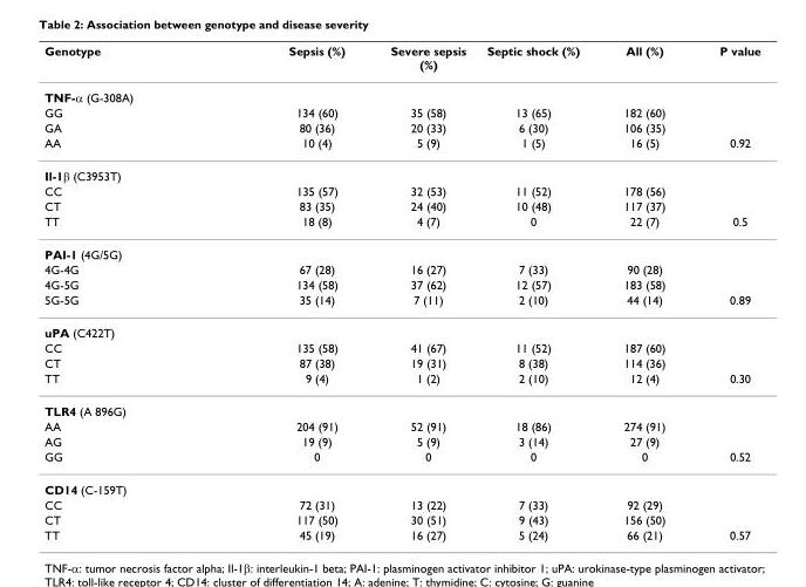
<table><thead><tr><td>Genotype</td><td>Sepsis (%)</td><td>Severe sepsis (%)</td><td>Septic shock (%)</td><td>All (%)</td><td>P value</td></tr></thead><tbody><tr><td colspan="6">TNF-α (G-308A)</td></tr><tr><td>GG</td><td>134 (60)</td><td>35 (58)</td><td>13 (65)</td><td>182 (60)</td><td></td></tr><tr><td>GA</td><td>80 (36)</td><td>20 (33)</td><td>6 (30)</td><td>106 (35)</td><td></td></tr><tr><td>AA</td><td>10 (4)</td><td>5 (9)</td><td>1 (5)</td><td>16 (5)</td><td>0.92</td></tr><tr><td colspan="6">Il-1β (C3953T)</td></tr><tr><td>CC</td><td>135 (57)</td><td>32 (53)</td><td>11 (52)</td><td>178 (56)</td><td></td></tr><tr><td>CT</td><td>83 (35)</td><td>24 (40)</td><td>10 (48)</td><td>117 (37)</td><td></td></tr><tr><td>TT</td><td>18 (8)</td><td>4 (7)</td><td>0</td><td>22 (7)</td><td>0.5</td></tr><tr><td colspan="6">PAI-1 (4G/5G)</td></tr><tr><td>4G-4G</td><td>67 (28)</td><td>16 (27)</td><td>7 (33)</td><td>90 (28)</td><td></td></tr><tr><td>4G-5G</td><td>134 (58)</td><td>37 (62)</td><td>12 (57)</td><td>183 (58)</td><td></td></tr><tr><td>5G-5G</td><td>35 (14)</td><td>7 (11)</td><td>2 (10)</td><td>44 (14)</td><td>0.89</td></tr><tr><td colspan="6">uPA (C422T)</td></tr><tr><td>CC</td><td>135 (58)</td><td>41 (67)</td><td>11 (52)</td><td>187 (60)</td><td></td></tr><tr><td>CT</td><td>87 (38)</td><td>19 (31)</td><td>8 (38)</td><td>114 (36)</td><td></td></tr><tr><td>TT</td><td>9 (4)</td><td>1 (2)</td><td>2 (10)</td><td>12 (4)</td><td>0.30</td></tr><tr><td colspan="6">TLR4 (A 896G)</td></tr><tr><td>AA</td><td>204 (91)</td><td>52 (91)</td><td>18 (86)</td><td>274 (91)</td><td></td></tr><tr><td>AG</td><td>19 (9)</td><td>5 (9)</td><td>3 (14)</td><td>27 (9)</td><td></td></tr><tr><td>GG</td><td>0</td><td>0</td><td>0</td><td>0</td><td>0.52</td></tr><tr><td colspan="6">CD14 (C-159T)</td></tr><tr><td>CC</td><td>72 (31)</td><td>13 (22)</td><td>7 (33)</td><td>92 (29)</td><td></td></tr><tr><td>CT</td><td>117 (50)</td><td>30 (51)</td><td>9 (43)</td><td>156 (50)</td><td></td></tr><tr><td>TT</td><td>45 (19)</td><td>16 (27)</td><td>5 (24)</td><td>66 (21)</td><td>0.57</td></tr></tbody></table>